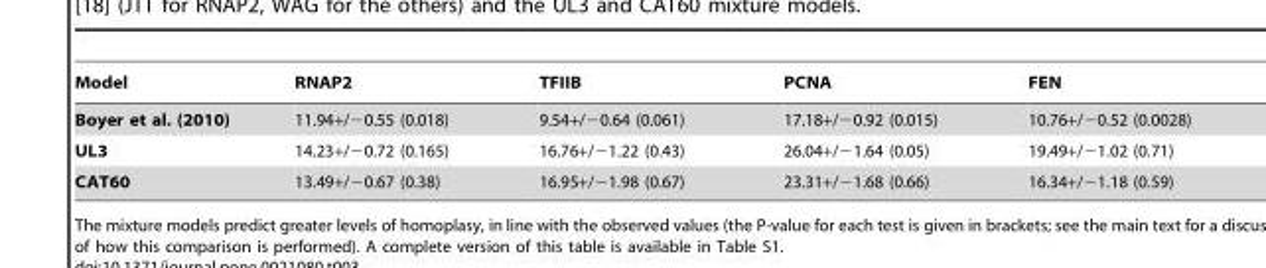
<table><thead><tr><td>Model</td><td>RNAP2</td><td>TFIIB</td><td>PCNA</td><td>FEN</td></tr></thead><tbody><tr><td>Boyer et al. (2010)</td><td>11.94+/−0.55 (0.018)</td><td>9.54+/−0.64 (0.061)</td><td>17.18+/−0.92 (0.015)</td><td>10.76+/−0.52 (0.0028)</td></tr><tr><td>UL3</td><td>14.23+/−0.72 (0.165)</td><td>16.76+/−1.22 (0.43)</td><td>26.04+/−1.64 (0.05)</td><td>19.49+/−1.02 (0.71)</td></tr><tr><td>CAT60</td><td>13.49+/−0.67 (0.38)</td><td>16.95+/−1.98 (0.67)</td><td>23.31+/−1.68 (0.66)</td><td>16.34+/−1.18 (0.59)</td></tr></tbody></table>